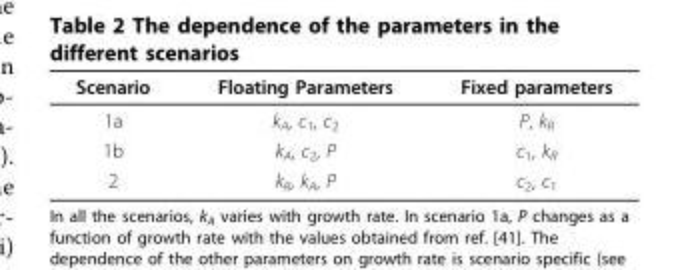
<table><thead><tr><td>Scenario</td><td>Floating Parameters</td><td>Fixed parameters</td></tr></thead><tbody><tr><td>1a</td><td>k<sub>A</sub>, c<sub>1</sub>, c<sub>2</sub></td><td>P, k<sub>R</sub></td></tr><tr><td>1b</td><td>k<sub>A</sub>, c<sub>2</sub>, P</td><td>c<sub>1</sub>, k<sub>R</sub></td></tr><tr><td>2</td><td>k<sub>R</sub>, k<sub>A</sub>, P</td><td>c<sub>2</sub>, c<sub>1</sub></td></tr></tbody></table>